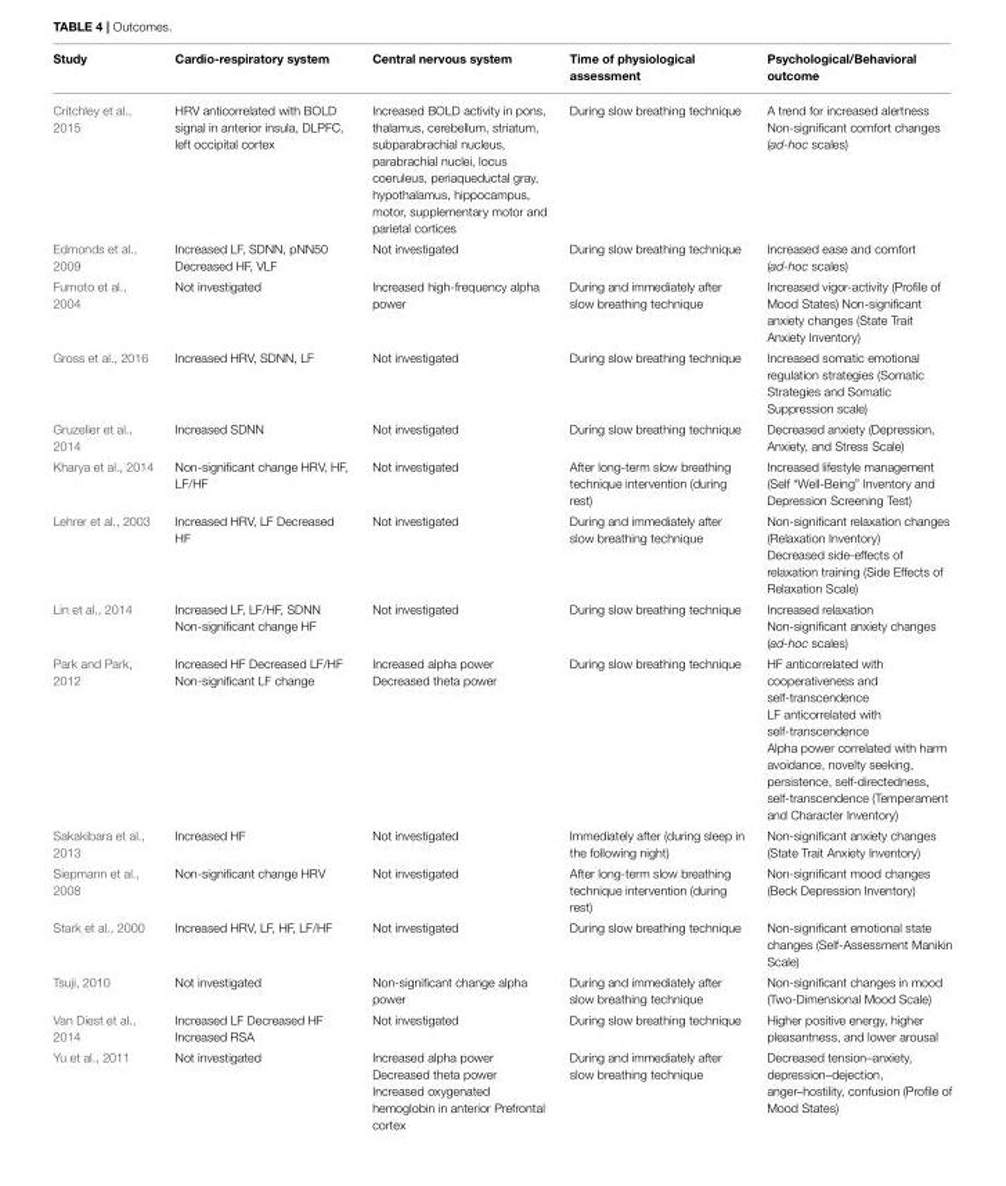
<table><thead><tr><td>Study</td><td>Cardio-respiratory system</td><td>Central nervous system</td><td>Time of physiological assessment</td><td>Psychological/Behavioral outcome</td></tr></thead><tbody><tr><td>Critchley et al., 2015</td><td>HRV anticorrelated with BOLD signal in anterior insula, DLPFC, left occipital cortex</td><td>Increased BOLD activity in pons, thalamus, cerebellum, striatum, subparabrachial nucleus, parabrachial nuclei, locus coeruleus, periaqueductal gray, hypothalamus, hippocampus, motor, supplementary motor and parietal cortices</td><td>During slow breathing technique</td><td>A trend for increased alertness Non-significant comfort changes (ad-hoc scales)</td></tr><tr><td>Edmonds et al., 2009</td><td>Increased LF, SDNN, pNN50 Decreased HF, VLF</td><td>Not investigated</td><td>During slow breathing technique</td><td>Increased ease and comfort (ad-hoc scales)</td></tr><tr><td>Fumoto et al., 2004</td><td>Not investigated</td><td>Increased high-frequency alpha power</td><td>During and immediately after slow breathing technique</td><td>Increased vigor-activity (Profile of Mood States) Non-significant anxiety changes (State Trait Anxiety Inventory)</td></tr><tr><td>Gross et al., 2016</td><td>Increased HRV, SDNN, LF</td><td>Not investigated</td><td>During slow breathing technique</td><td>Increased somatic emotional regulation strategies (Somatic Strategies and Somatic Suppression scale)</td></tr><tr><td>Gruzelier et al., 2014</td><td>Increased SDNN</td><td>Not investigated</td><td>During slow breathing technique</td><td>Decreased anxiety (Depression, Anxiety, and Stress Scale)</td></tr><tr><td>Kharya et al., 2014</td><td>Non-significant change HRV, HF, LF/HF</td><td>Not investigated</td><td>After long-term slow breathing technique intervention (during rest)</td><td>Increased lifestyle management (Self “Well-Being” Inventory and Depression Screening Test)</td></tr><tr><td>Lehrer et al., 2003</td><td>Increased HRV, LF Decreased HF</td><td>Not investigated</td><td>During and immediately after slow breathing technique</td><td>Non-significant relaxation changes (Relaxation Inventory) Decreased side-effects of relaxation training (Side Effects of Relaxation Scale)</td></tr><tr><td>Lin et al., 2014</td><td>Increased LF, LF/HF, SDNN Non-significant change HF</td><td>Not investigated</td><td>During slow breathing technique</td><td>Increased relaxation Non-significant anxiety changes (ad-hoc scales)</td></tr><tr><td>Park and Park, 2012</td><td>Increased HF Decreased LF/HF Non-significant LF change</td><td>Increased alpha power Decreased theta power</td><td>During slow breathing technique</td><td>HF anticorrelated with cooperativeness and self-transcendence LF anticorrelated with self-transcendence Alpha power correlated with harm avoidance, novelty seeking, persistence, self-directedness, self-transcendence (Temperament and Character Inventory)</td></tr><tr><td>Sakakibara et al., 2013</td><td>Increased HF</td><td>Not investigated</td><td>Immediately after (during sleep in the following night)</td><td>Non-significant anxiety changes (State Trait Anxiety Inventory)</td></tr><tr><td>Siepmann et al., 2008</td><td>Non-significant change HRV</td><td>Not investigated</td><td>After long-term slow breathing technique intervention (during rest)</td><td>Non-significant mood changes (Beck Depression Inventory)</td></tr><tr><td>Stark et al., 2000</td><td>Increased HRV, LF, HF, LF/HF</td><td>Not investigated</td><td>During slow breathing technique</td><td>Non-significant emotional state changes (Self-Assessment Manikin Scale)</td></tr><tr><td>Tsuji, 2010</td><td>Not investigated</td><td>Non-significant change alpha power</td><td>During and immediately after slow breathing technique</td><td>Non-significant changes in mood (Two-Dimensional Mood Scale)</td></tr><tr><td>Van Diest et al., 2014</td><td>Increased LF Decreased HF Increased RSA</td><td>Not investigated</td><td>During slow breathing technique</td><td>Higher positive energy, higher pleasantness, and lower arousal</td></tr><tr><td>Yu et al., 2011</td><td>Not investigated</td><td>Increased alpha power Decreased theta power Increased oxygenated hemoglobin in anterior Prefrontal cortex</td><td>During and immediately after slow breathing technique</td><td>Decreased tension–anxiety, depression–dejection, anger–hostility, confusion (Profile of Mood States)</td></tr></tbody></table>